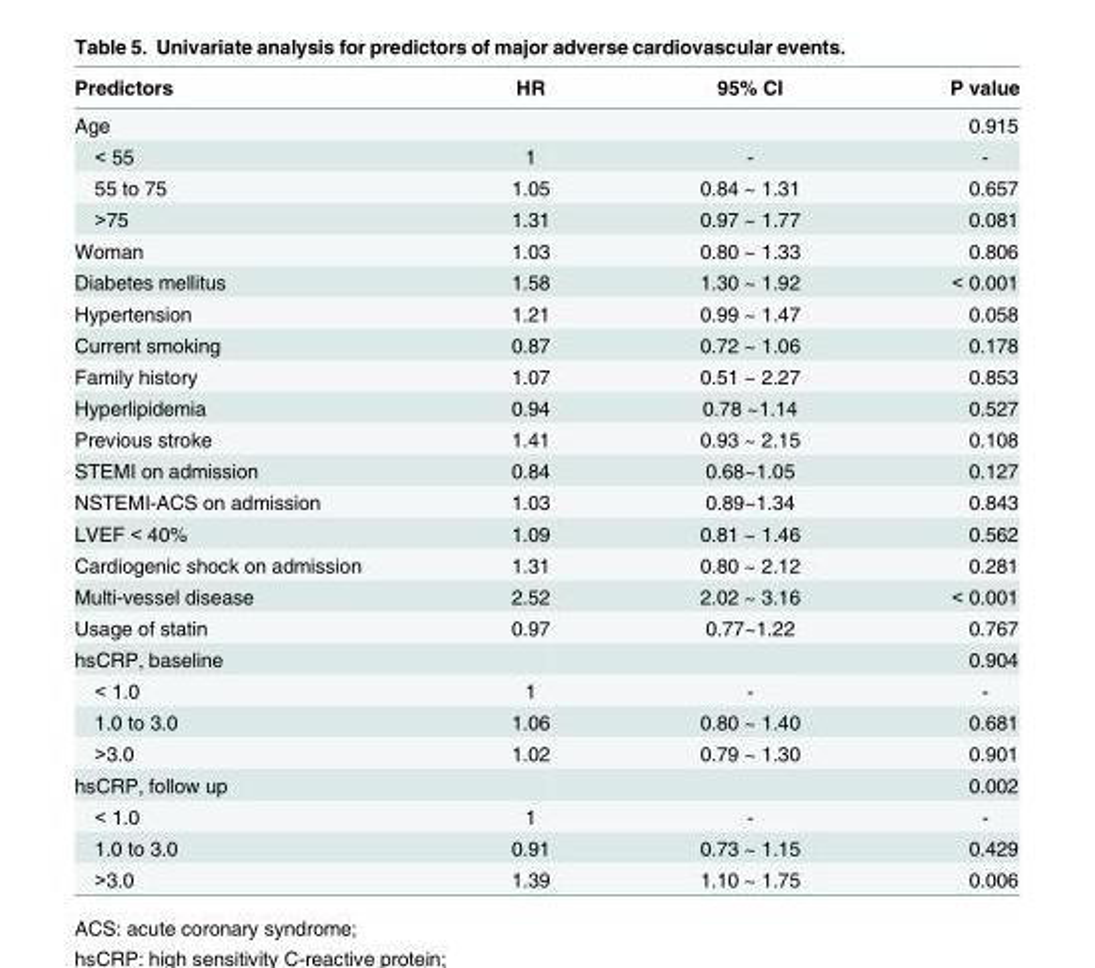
<table><thead><tr><td>Predictors</td><td>HR</td><td>95% CI</td><td>P value</td></tr></thead><tbody><tr><td>Age</td><td></td><td></td><td>0.915</td></tr><tr><td>&lt; 55</td><td>1</td><td>-</td><td>-</td></tr><tr><td>55 to 75</td><td>1.05</td><td>0.84 ~ 1.31</td><td>0.657</td></tr><tr><td>&gt;75</td><td>1.31</td><td>0.97 ~ 1.77</td><td>0.081</td></tr><tr><td>Woman</td><td>1.03</td><td>0.80 ~ 1.33</td><td>0.806</td></tr><tr><td>Diabetes mellitus</td><td>1.58</td><td>1.30 ~ 1.92</td><td>&lt; 0.001</td></tr><tr><td>Hypertension</td><td>1.21</td><td>0.99 ~ 1.47</td><td>0.058</td></tr><tr><td>Current smoking</td><td>0.87</td><td>0.72 ~ 1.06</td><td>0.178</td></tr><tr><td>Family history</td><td>1.07</td><td>0.51 ~ 2.27</td><td>0.853</td></tr><tr><td>Hyperlipidemia</td><td>0.94</td><td>0.78 ~1.14</td><td>0.527</td></tr><tr><td>Previous stroke</td><td>1.41</td><td>0.93 ~ 2.15</td><td>0.108</td></tr><tr><td>STEMI on admission</td><td>0.84</td><td>0.68~1.05</td><td>0.127</td></tr><tr><td>NSTEMI-ACS on admission</td><td>1.03</td><td>0.89~1.34</td><td>0.843</td></tr><tr><td>LVEF &lt; 40%</td><td>1.09</td><td>0.81 ~ 1.46</td><td>0.562</td></tr><tr><td>Cardiogenic shock on admission</td><td>1.31</td><td>0.80 ~ 2.12</td><td>0.281</td></tr><tr><td>Multi-vessel disease</td><td>2.52</td><td>2.02 ~ 3.16</td><td>&lt; 0.001</td></tr><tr><td>Usage of statin</td><td>0.97</td><td>0.77~1.22</td><td>0.767</td></tr><tr><td>hsCRP, baseline</td><td></td><td></td><td>0.904</td></tr><tr><td>&lt; 1.0</td><td>1</td><td>-</td><td>-</td></tr><tr><td>1.0 to 3.0</td><td>1.06</td><td>0.80 ~ 1.40</td><td>0.681</td></tr><tr><td>&gt;3.0</td><td>1.02</td><td>0.79 ~ 1.30</td><td>0.901</td></tr><tr><td>hsCRP, follow up</td><td></td><td></td><td>0.002</td></tr><tr><td>&lt; 1.0</td><td>1</td><td>-</td><td>-</td></tr><tr><td>1.0 to 3.0</td><td>0.91</td><td>0.73 ~ 1.15</td><td>0.429</td></tr><tr><td>&gt;3.0</td><td>1.39</td><td>1.10 ~ 1.75</td><td>0.006</td></tr></tbody></table>